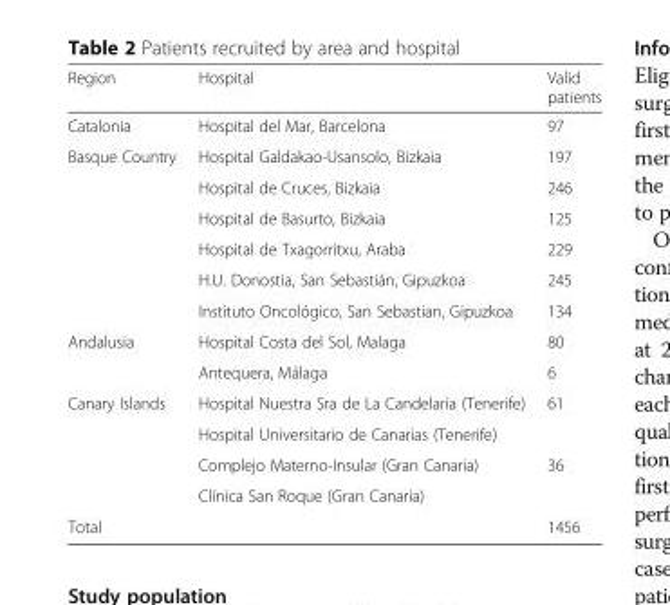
<table><thead><tr><td>Region</td><td>Hospital</td><td>Valid patients</td></tr></thead><tbody><tr><td>Catalonia</td><td>Hospital del Mar, Barcelona</td><td>97</td></tr><tr><td rowspan="6">Basque Country</td><td>Hospital Galdakao-Usansolo, Bizkaia</td><td>197</td></tr><tr><td>Hospital de Cruces, Bizkaia</td><td>246</td></tr><tr><td>Hospital de Basurto, Bizkaia</td><td>125</td></tr><tr><td>Hospital de Txagorritxu, Araba</td><td>229</td></tr><tr><td>H.U. Donostia, San Sebastián, Gipuzkoa</td><td>245</td></tr><tr><td>Instituto Oncológico, San Sebastian, Gipuzkoa</td><td>134</td></tr><tr><td rowspan="2">Andalusia</td><td>Hospital Costa del Sol, Malaga</td><td>80</td></tr><tr><td>Antequera, Málaga</td><td>6</td></tr><tr><td rowspan="4">Canary Islands</td><td>Hospital Nuestra Sra de La Candelaria (Tenerife)</td><td rowspan="2">61</td></tr><tr><td>Hospital Universitario de Canarias (Tenerife)</td></tr><tr><td>Complejo Materno-Insular (Gran Canaria)</td><td rowspan="2">36</td></tr><tr><td>Clínica San Roque (Gran Canaria)</td></tr><tr><td>Total</td><td></td><td>1456</td></tr></tbody></table>